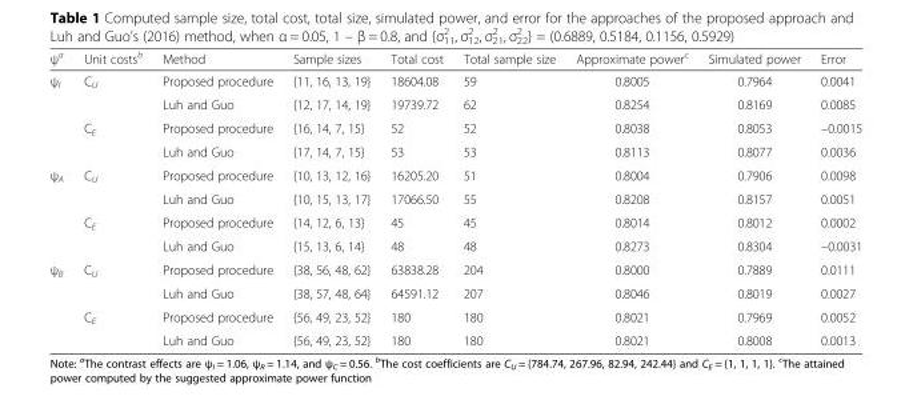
<table><thead><tr><td>ψ<sup>a</sup></td><td>Unit costs<sup>b</sup></td><td>Method</td><td>Sample sizes</td><td>Total cost</td><td>Total sample size</td><td>Approximate power<sup>c</sup></td><td>Simulated power</td><td>Error</td></tr></thead><tbody><tr><td rowspan="4">ψ<sub>I</sub></td><td>C<sub>U</sub></td><td>Proposed procedure</td><td>{11, 16, 13, 19}</td><td>18604.08</td><td>59</td><td>0.8005</td><td>0.7964</td><td>0.0041</td></tr><tr><td></td><td>Luh and Guo</td><td>{12, 17, 14, 19}</td><td>19739.72</td><td>62</td><td>0.8254</td><td>0.8169</td><td>0.0085</td></tr><tr><td>C<sub>E</sub></td><td>Proposed procedure</td><td>{16, 14, 7, 15}</td><td>52</td><td>52</td><td>0.8038</td><td>0.8053</td><td>–0.0015</td></tr><tr><td></td><td>Luh and Guo</td><td>{17, 14, 7, 15}</td><td>53</td><td>53</td><td>0.8113</td><td>0.8077</td><td>0.0036</td></tr><tr><td rowspan="4">ψ<sub>A</sub></td><td>C<sub>U</sub></td><td>Proposed procedure</td><td>{10, 13, 12, 16}</td><td>16205.20</td><td>51</td><td>0.8004</td><td>0.7906</td><td>0.0098</td></tr><tr><td></td><td>Luh and Guo</td><td>{10, 15, 13, 17}</td><td>17066.50</td><td>55</td><td>0.8208</td><td>0.8157</td><td>0.0051</td></tr><tr><td>C<sub>E</sub></td><td>Proposed procedure</td><td>{14, 12, 6, 13}</td><td>45</td><td>45</td><td>0.8014</td><td>0.8012</td><td>0.0002</td></tr><tr><td></td><td>Luh and Guo</td><td>{15, 13, 6, 14}</td><td>48</td><td>48</td><td>0.8273</td><td>0.8304</td><td>–0.0031</td></tr><tr><td rowspan="4">ψ<sub>B</sub></td><td>C<sub>U</sub></td><td>Proposed procedure</td><td>{38, 56, 48, 62}</td><td>63838.28</td><td>204</td><td>0.8000</td><td>0.7889</td><td>0.0111</td></tr><tr><td></td><td>Luh and Guo</td><td>{38, 57, 48, 64}</td><td>64591.12</td><td>207</td><td>0.8046</td><td>0.8019</td><td>0.0027</td></tr><tr><td>C<sub>E</sub></td><td>Proposed procedure</td><td>{56, 49, 23, 52}</td><td>180</td><td>180</td><td>0.8021</td><td>0.7969</td><td>0.0052</td></tr><tr><td></td><td>Luh and Guo</td><td>{56, 49, 23, 52}</td><td>180</td><td>180</td><td>0.8021</td><td>0.8008</td><td>0.0013</td></tr></tbody></table>